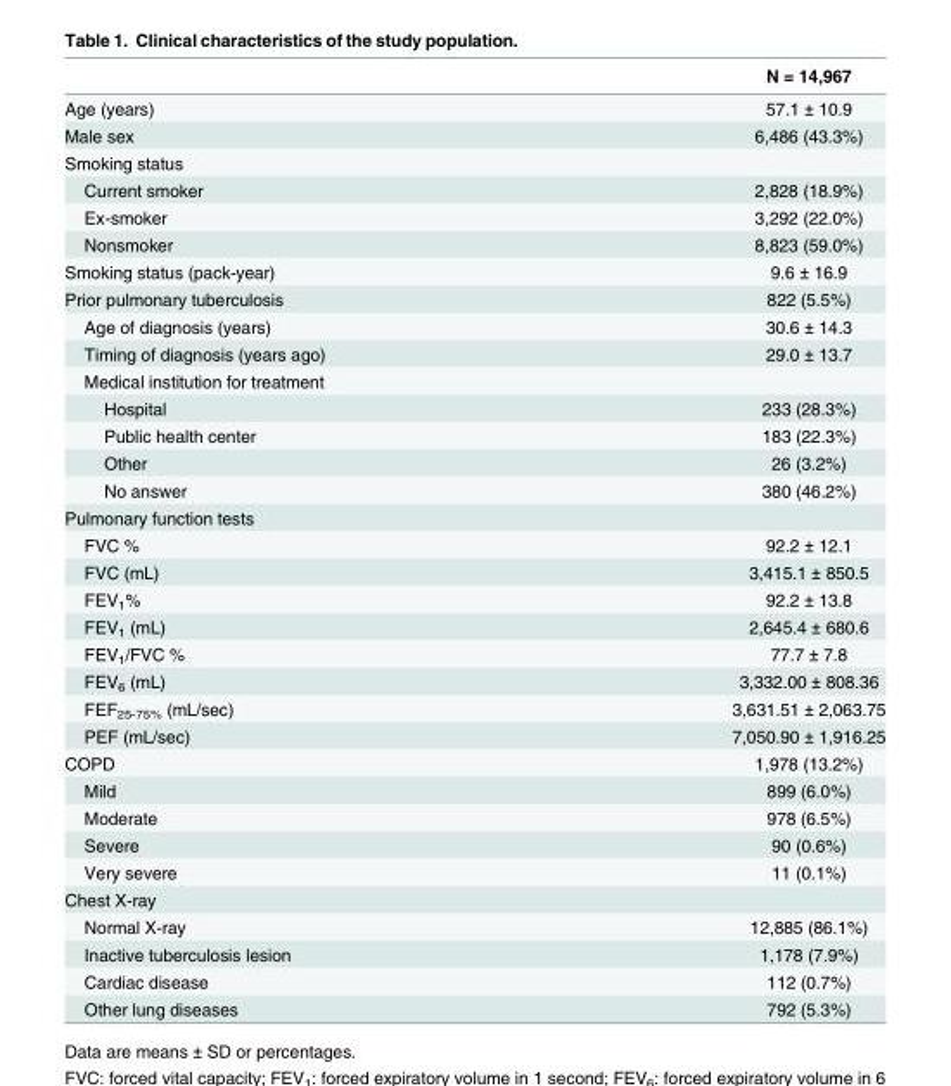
<table><thead><tr><td></td><td>N = 14,967</td></tr></thead><tbody><tr><td>Age (years)</td><td>57.1 ± 10.9</td></tr><tr><td>Male sex</td><td>6,486 (43.3%)</td></tr><tr><td colspan="2">Smoking status</td></tr><tr><td>Current smoker</td><td>2,828 (18.9%)</td></tr><tr><td>Ex-smoker</td><td>3,292 (22.0%)</td></tr><tr><td>Nonsmoker</td><td>8,823 (59.0%)</td></tr><tr><td>Smoking status (pack-year)</td><td>9.6 ± 16.9</td></tr><tr><td>Prior pulmonary tuberculosis</td><td>822 (5.5%)</td></tr><tr><td>Age of diagnosis (years)</td><td>30.6 ± 14.3</td></tr><tr><td>Timing of diagnosis (years ago)</td><td>29.0 ± 13.7</td></tr><tr><td colspan="2">Medical institution for treatment</td></tr><tr><td>Hospital</td><td>233 (28.3%)</td></tr><tr><td>Public health center</td><td>183 (22.3%)</td></tr><tr><td>Other</td><td>26 (3.2%)</td></tr><tr><td>No answer</td><td>380 (46.2%)</td></tr><tr><td colspan="2">Pulmonary function tests</td></tr><tr><td>FVC %</td><td>92.2 ± 12.1</td></tr><tr><td>FVC (mL)</td><td>3,415.1 ± 850.5</td></tr><tr><td>FEV<sub>1</sub>%</td><td>92.2 ± 13.8</td></tr><tr><td>FEV<sub>1</sub> (mL)</td><td>2,645.4 ± 680.6</td></tr><tr><td>FEV<sub>1</sub>/FVC %</td><td>77.7 ± 7.8</td></tr><tr><td>FEV<sub>6</sub> (mL)</td><td>3,332.00 ± 808.36</td></tr><tr><td>FEF<sub>25-75%</sub> (mL/sec)</td><td>3,631.51 ± 2,063.75</td></tr><tr><td>PEF (mL/sec)</td><td>7,050.90 ± 1,916.25</td></tr><tr><td>COPD</td><td>1,978 (13.2%)</td></tr><tr><td>Mild</td><td>899 (6.0%)</td></tr><tr><td>Moderate</td><td>978 (6.5%)</td></tr><tr><td>Severe</td><td>90 (0.6%)</td></tr><tr><td>Very severe</td><td>11 (0.1%)</td></tr><tr><td colspan="2">Chest X-ray</td></tr><tr><td>Normal X-ray</td><td>12,885 (86.1%)</td></tr><tr><td>Inactive tuberculosis lesion</td><td>1,178 (7.9%)</td></tr><tr><td>Cardiac disease</td><td>112 (0.7%)</td></tr><tr><td>Other lung diseases</td><td>792 (5.3%)</td></tr></tbody></table>